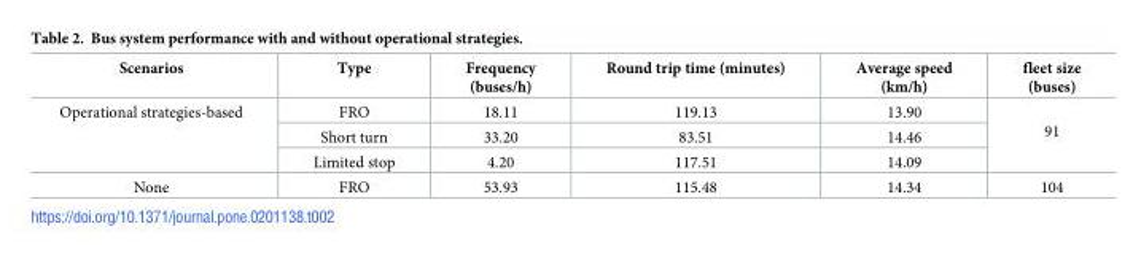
<table><thead><tr><td>Scenarios</td><td>Type</td><td>Frequency (buses/h)</td><td>Round trip time (minutes)</td><td>Average speed (km/h)</td><td>fleet size (buses)</td></tr></thead><tbody><tr><td rowspan="3">Operational strategies-based</td><td>FRO</td><td>18.11</td><td>119.13</td><td>13.90</td><td rowspan="3">91</td></tr><tr><td>Short turn</td><td>33.20</td><td>83.51</td><td>14.46</td></tr><tr><td>Limited stop</td><td>4.20</td><td>117.51</td><td>14.09</td></tr><tr><td>None</td><td>FRO</td><td>53.93</td><td>115.48</td><td>14.34</td><td>104</td></tr></tbody></table>